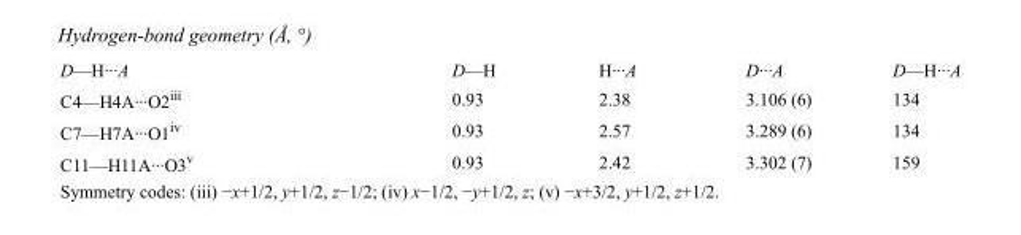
<table><tbody><tr><td>D—H···A</td><td>D—H</td><td>H···A</td><td>D···A</td><td>D—H···A</td></tr><tr><td>C4—H4A···O2<sup>iii</sup></td><td>0.93</td><td>2.38</td><td>3.106 (6)</td><td>134</td></tr><tr><td>C7—H7A···O1<sup>iv</sup></td><td>0.93</td><td>2.57</td><td>3.289 (6)</td><td>134</td></tr><tr><td>C11—H11A···O3<sup>v</sup></td><td>0.93</td><td>2.42</td><td>3.302 (7)</td><td>159</td></tr></tbody></table>